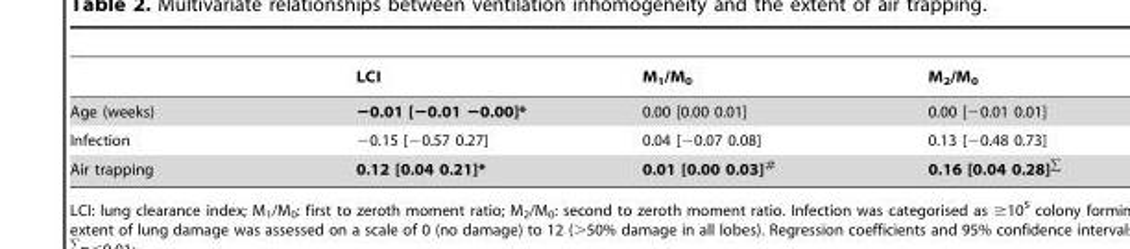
<table><thead><tr><td></td><td>LCI</td><td>M<sub>1</sub>/M<sub>0</sub></td><td>M<sub>2</sub>/M<sub>0</sub></td></tr></thead><tbody><tr><td>Age (weeks)</td><td>−0.01 [−0.01 −0.00]*</td><td>0.00 [0.00 0.01]</td><td>0.00 [−0.01 0.01]</td></tr><tr><td>Infection</td><td>−0.15 [−0.57 0.27]</td><td>0.04 [−0.07 0.08]</td><td>0.13 [−0.48 0.73]</td></tr><tr><td>Air trapping</td><td>0.12 [0.04 0.21]*</td><td>0.01 [0.00 0.03]#</td><td>0.16 [0.04 0.28]∑</td></tr></tbody></table>